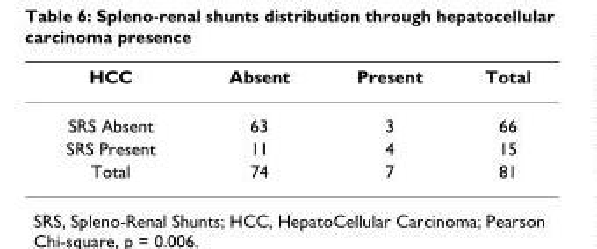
<table><thead><tr><td>HCC</td><td>Absent</td><td>Present</td><td>Total</td></tr></thead><tbody><tr><td>SRS Absent</td><td>63</td><td>3</td><td>66</td></tr><tr><td>SRS Present</td><td>11</td><td>4</td><td>15</td></tr><tr><td>Total</td><td>74</td><td>7</td><td>81</td></tr></tbody></table>